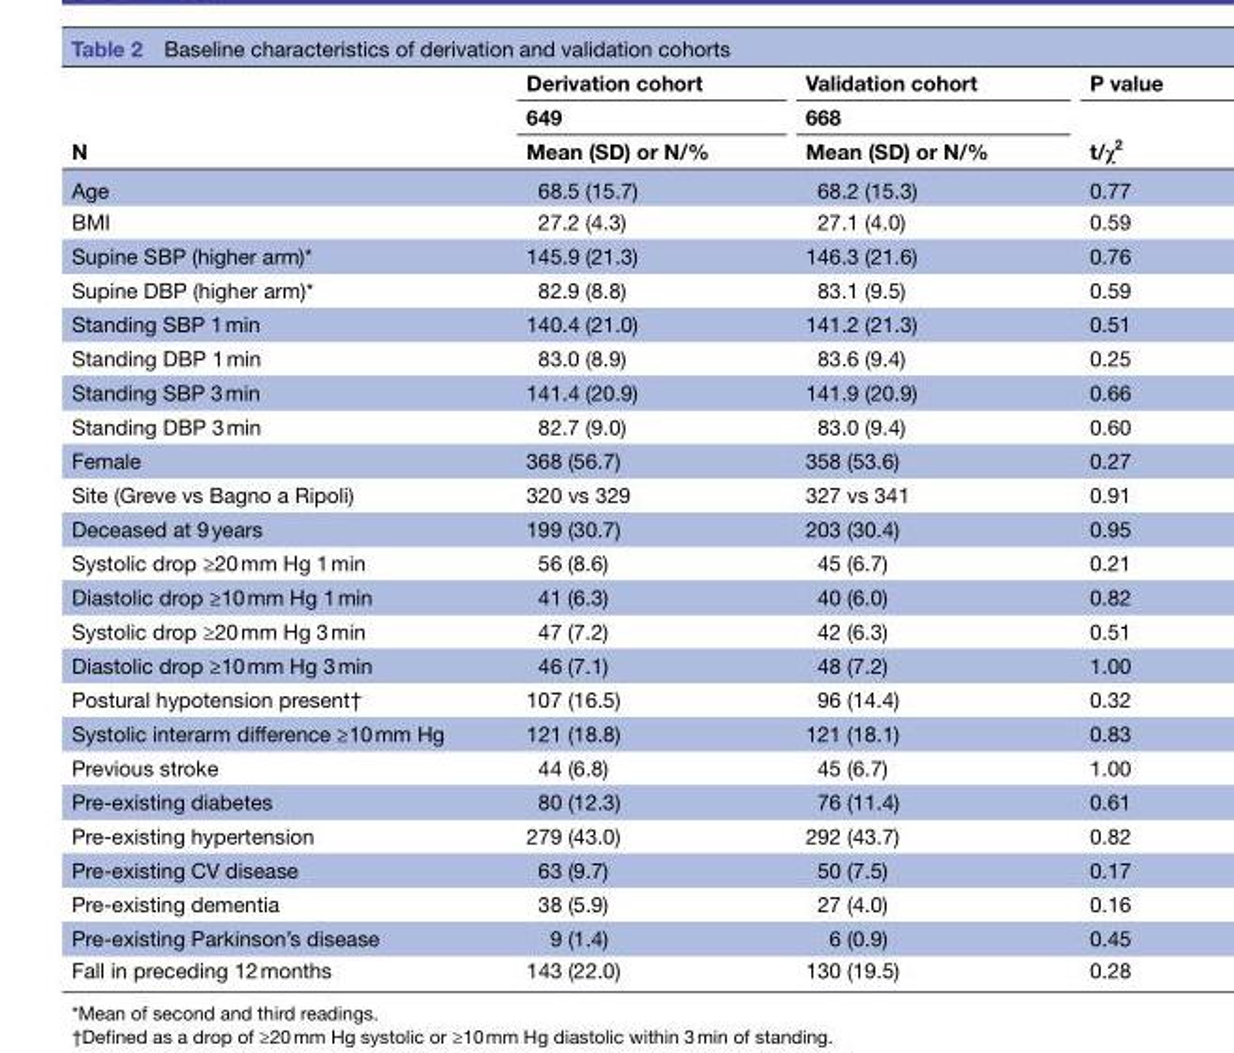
<table><thead><tr><td rowspan="3">N</td><td rowspan="3">Derivation cohort 649 Mean (SD) or N/%</td><td rowspan="3">Validation cohort 668 Mean (SD) or N/%</td><td rowspan="3">P value t/χ<sup>2</sup></td></tr><tr></tr><tr></tr></thead><tbody><tr><td>Age</td><td>68.5 (15.7)</td><td>68.2 (15.3)</td><td>0.77</td></tr><tr><td>BMI</td><td>27.2 (4.3)</td><td>27.1 (4.0)</td><td>0.59</td></tr><tr><td>Supine SBP (higher arm)*</td><td>145.9 (21.3)</td><td>146.3 (21.6)</td><td>0.76</td></tr><tr><td>Supine DBP (higher arm)*</td><td>82.9 (8.8)</td><td>83.1 (9.5)</td><td>0.59</td></tr><tr><td>Standing SBP 1 min</td><td>140.4 (21.0)</td><td>141.2 (21.3)</td><td>0.51</td></tr><tr><td>Standing DBP 1 min</td><td>83.0 (8.9)</td><td>83.6 (9.4)</td><td>0.25</td></tr><tr><td>Standing SBP 3 min</td><td>141.4 (20.9)</td><td>141.9 (20.9)</td><td>0.66</td></tr><tr><td>Standing DBP 3 min</td><td>82.7 (9.0)</td><td>83.0 (9.4)</td><td>0.60</td></tr><tr><td>Female</td><td>368 (56.7)</td><td>358 (53.6)</td><td>0.27</td></tr><tr><td>Site (Greve vs Bagno a Ripoli)</td><td>320 vs 329</td><td>327 vs 341</td><td>0.91</td></tr><tr><td>Deceased at 9 years</td><td>199 (30.7)</td><td>203 (30.4)</td><td>0.95</td></tr><tr><td>Systolic drop ≥20 mm Hg 1 min</td><td>56 (8.6)</td><td>45 (6.7)</td><td>0.21</td></tr><tr><td>Diastolic drop ≥10 mm Hg 1 min</td><td>41 (6.3)</td><td>40 (6.0)</td><td>0.82</td></tr><tr><td>Systolic drop ≥20 mm Hg 3 min</td><td>47 (7.2)</td><td>42 (6.3)</td><td>0.51</td></tr><tr><td>Diastolic drop ≥10 mm Hg 3 min</td><td>46 (7.1)</td><td>48 (7.2)</td><td>1.00</td></tr><tr><td>Postural hypotension present†</td><td>107 (16.5)</td><td>96 (14.4)</td><td>0.32</td></tr><tr><td>Systolic interarm difference ≥10 mm Hg</td><td>121 (18.8)</td><td>121 (18.1)</td><td>0.83</td></tr><tr><td>Previous stroke</td><td>44 (6.8)</td><td>45 (6.7)</td><td>1.00</td></tr><tr><td>Pre-existing diabetes</td><td>80 (12.3)</td><td>76 (11.4)</td><td>0.61</td></tr><tr><td>Pre-existing hypertension</td><td>279 (43.0)</td><td>292 (43.7)</td><td>0.82</td></tr><tr><td>Pre-existing CV disease</td><td>63 (9.7)</td><td>50 (7.5)</td><td>0.17</td></tr><tr><td>Pre-existing dementia</td><td>38 (5.9)</td><td>27 (4.0)</td><td>0.16</td></tr><tr><td>Pre-existing Parkinson’s disease</td><td>9 (1.4)</td><td>6 (0.9)</td><td>0.45</td></tr><tr><td>Fall in preceding 12 months</td><td>143 (22.0)</td><td>130 (19.5)</td><td>0.28</td></tr></tbody></table>